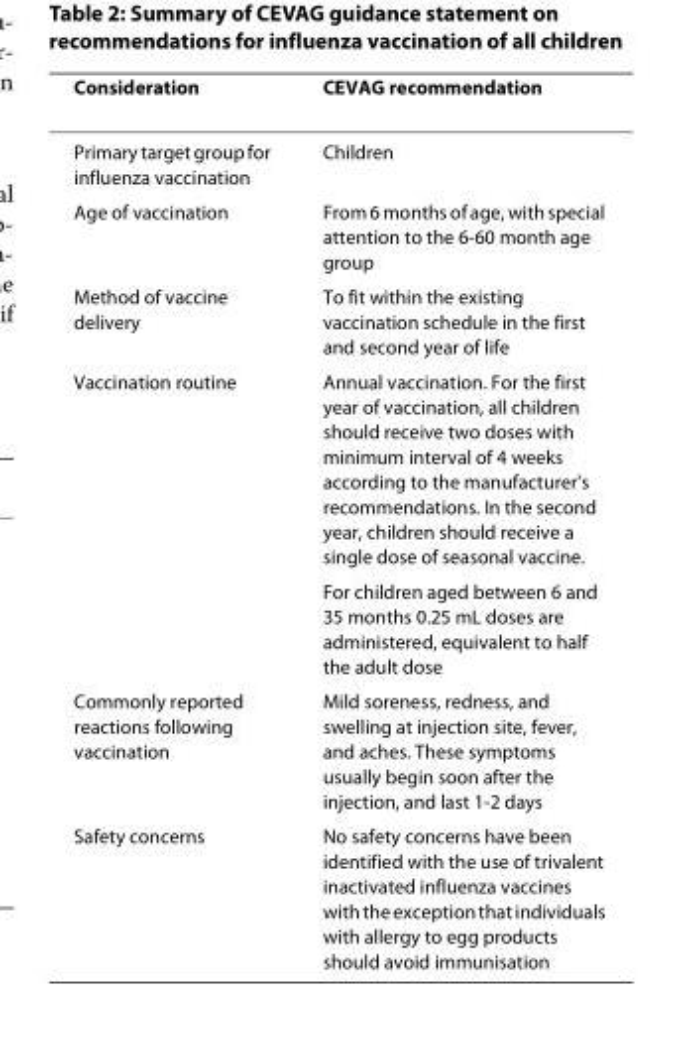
<table><thead><tr><td>Consideration</td><td>CEVAG recommendation</td></tr></thead><tbody><tr><td>Primary target group for influenza vaccination</td><td>Children</td></tr><tr><td>Age of vaccination</td><td>From 6 months of age, with special attention to the 6-60 month age group</td></tr><tr><td>Method of vaccine delivery</td><td>To fit within the existing vaccination schedule in the first and second year of life</td></tr><tr><td rowspan="2">Vaccination routine</td><td>Annual vaccination. For the first year of vaccination, all children should receive two doses with minimum interval of 4 weeks according to the manufacturer&#x27;s recommendations. In the second year, children should receive a single dose of seasonal vaccine.</td></tr><tr><td>For children aged between 6 and 35 months 0.25 mL doses are administered, equivalent to half the adult dose</td></tr><tr><td>Commonly reported reactions following vaccination</td><td>Mild soreness, redness, and swelling at injection site, fever, and aches. These symptoms usually begin soon after the injection, and last 1-2 days</td></tr><tr><td>Safety concerns</td><td>No safety concerns have been identified with the use of trivalent inactivated influenza vaccines with the exception that individuals with allergy to egg products should avoid immunisation</td></tr></tbody></table>